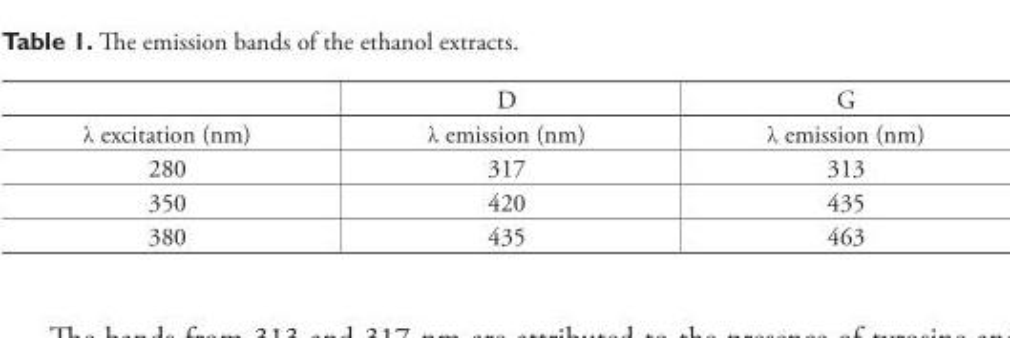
<table><thead><tr><td></td><td>D</td><td>G</td></tr></thead><tbody><tr><td>λ excitation (nm)</td><td>λ emission (nm)</td><td>λ emission (nm)</td></tr><tr><td>280</td><td>317</td><td>313</td></tr><tr><td>350</td><td>420</td><td>435</td></tr><tr><td>380</td><td>435</td><td>463</td></tr></tbody></table>